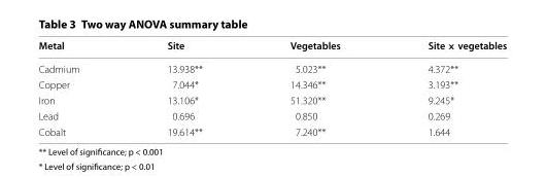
<table><thead><tr><td>Metal</td><td>Site</td><td>Vegetables</td><td>Site × vegetables</td></tr></thead><tbody><tr><td>Cadmium</td><td>13.938**</td><td>5.023**</td><td>4.372**</td></tr><tr><td>Copper</td><td>7.044*</td><td>14.346**</td><td>3.193**</td></tr><tr><td>Iron</td><td>13.106*</td><td>51.320**</td><td>9.245*</td></tr><tr><td>Lead</td><td>0.696</td><td>0.850</td><td>0.269</td></tr><tr><td>Cobalt</td><td>19.614**</td><td>7.240**</td><td>1.644</td></tr></tbody></table>